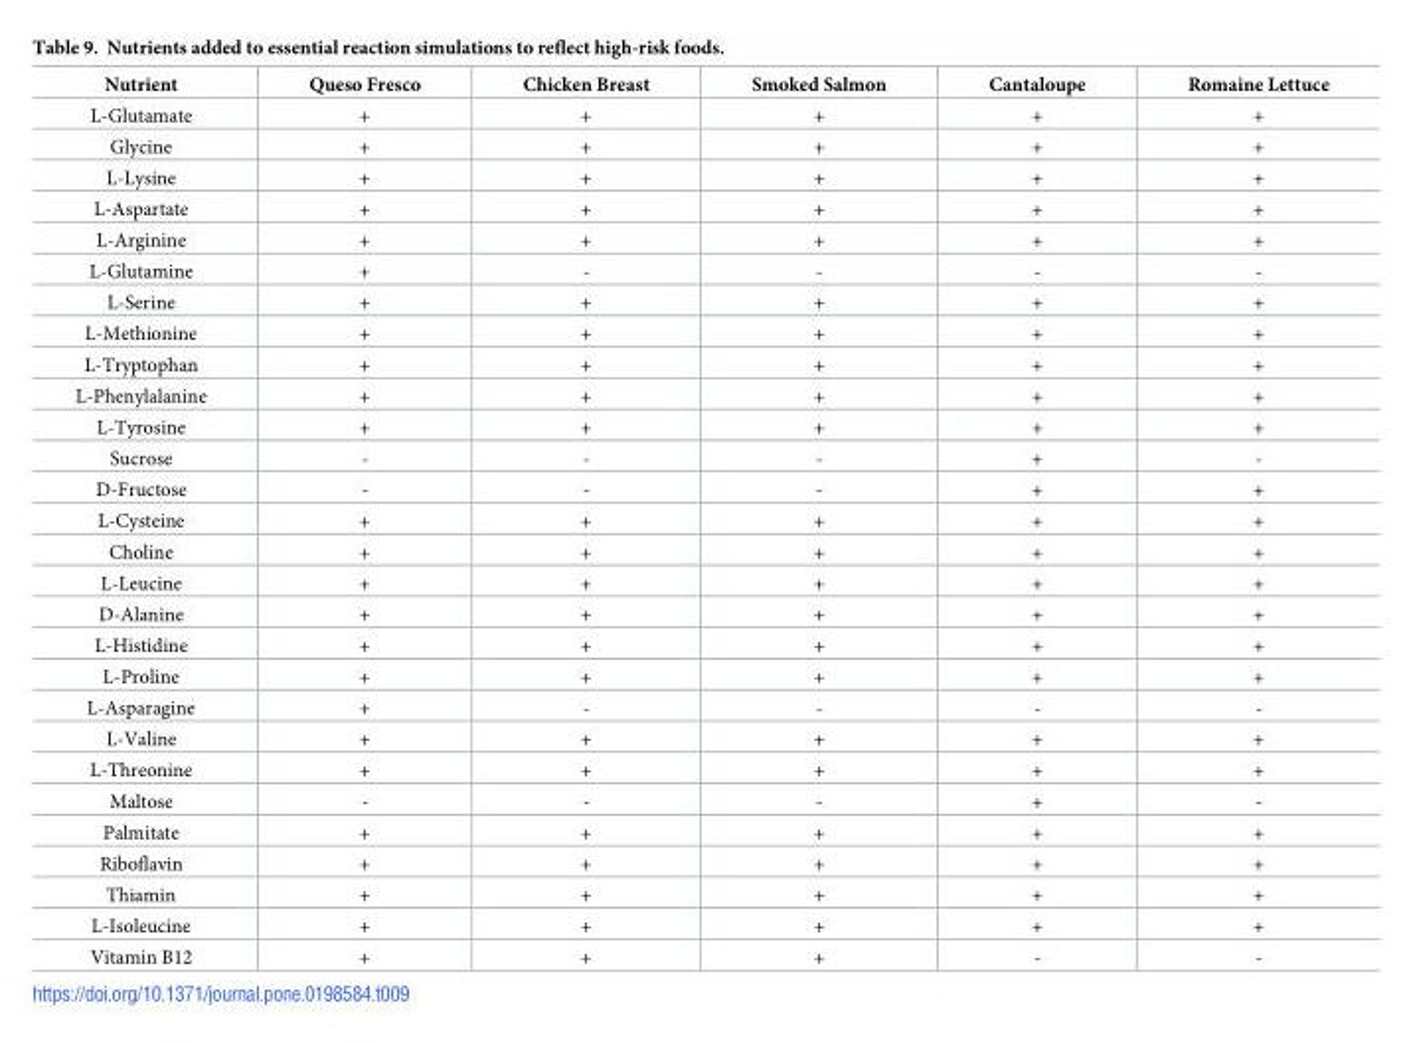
<table><thead><tr><td>Nutrient</td><td>Queso Fresco</td><td>Chicken Breast</td><td>Smoked Salmon</td><td>Cantaloupe</td><td>Romaine Lettuce</td></tr></thead><tbody><tr><td>L-Glutamate</td><td>+</td><td>+</td><td>+</td><td>+</td><td>+</td></tr><tr><td>Glycine</td><td>+</td><td>+</td><td>+</td><td>+</td><td>+</td></tr><tr><td>L-Lysine</td><td>+</td><td>+</td><td>+</td><td>+</td><td>+</td></tr><tr><td>L-Aspartate</td><td>+</td><td>+</td><td>+</td><td>+</td><td>+</td></tr><tr><td>L-Arginine</td><td>+</td><td>+</td><td>+</td><td>+</td><td>+</td></tr><tr><td>L-Glutamine</td><td>+</td><td>-</td><td>-</td><td>-</td><td>-</td></tr><tr><td>L-Serine</td><td>+</td><td>+</td><td>+</td><td>+</td><td>+</td></tr><tr><td>L-Methionine</td><td>+</td><td>+</td><td>+</td><td>+</td><td>+</td></tr><tr><td>L-Tryptophan</td><td>+</td><td>+</td><td>+</td><td>+</td><td>+</td></tr><tr><td>L-Phenylalanine</td><td>+</td><td>+</td><td>+</td><td>+</td><td>+</td></tr><tr><td>L-Tyrosine</td><td>+</td><td>+</td><td>+</td><td>+</td><td>+</td></tr><tr><td>Sucrose</td><td>-</td><td>-</td><td>-</td><td>+</td><td>-</td></tr><tr><td>D-Fructose</td><td>-</td><td>-</td><td>-</td><td>+</td><td>+</td></tr><tr><td>L-Cysteine</td><td>+</td><td>+</td><td>+</td><td>+</td><td>+</td></tr><tr><td>Choline</td><td>+</td><td>+</td><td>+</td><td>+</td><td>+</td></tr><tr><td>L-Leucine</td><td>+</td><td>+</td><td>+</td><td>+</td><td>+</td></tr><tr><td>D-Alanine</td><td>+</td><td>+</td><td>+</td><td>+</td><td>+</td></tr><tr><td>L-Histidine</td><td>+</td><td>+</td><td>+</td><td>+</td><td>+</td></tr><tr><td>L-Proline</td><td>+</td><td>+</td><td>+</td><td>+</td><td>+</td></tr><tr><td>L-Asparagine</td><td>+</td><td>-</td><td>-</td><td>-</td><td>-</td></tr><tr><td>L-Valine</td><td>+</td><td>+</td><td>+</td><td>+</td><td>+</td></tr><tr><td>L-Threonine</td><td>+</td><td>+</td><td>+</td><td>+</td><td>+</td></tr><tr><td>Maltose</td><td>-</td><td>-</td><td>-</td><td>+</td><td>-</td></tr><tr><td>Palmitate</td><td>+</td><td>+</td><td>+</td><td>+</td><td>+</td></tr><tr><td>Riboflavin</td><td>+</td><td>+</td><td>+</td><td>+</td><td>+</td></tr><tr><td>Thiamin</td><td>+</td><td>+</td><td>+</td><td>+</td><td>+</td></tr><tr><td>L-Isoleucine</td><td>+</td><td>+</td><td>+</td><td>+</td><td>+</td></tr><tr><td>Vitamin B12</td><td>+</td><td>+</td><td>+</td><td>-</td><td>-</td></tr></tbody></table>